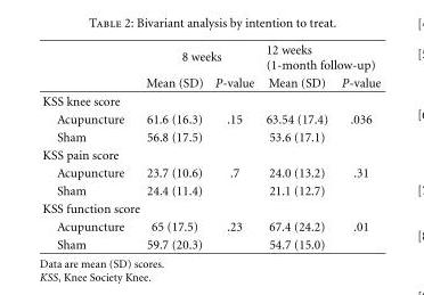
<table><thead><tr><td rowspan="2"></td><td colspan="2">8 weeks</td><td colspan="2">12 weeks (1-month follow-up)</td></tr><tr><td>Mean (SD)</td><td>P-value</td><td>Mean (SD)</td><td>P-value</td></tr></thead><tbody><tr><td colspan="5">KSS knee score</td></tr><tr><td>Acupuncture</td><td>61.6 (16.3)</td><td>.15</td><td>63.54 (17.4)</td><td>.036</td></tr><tr><td>Sham</td><td>56.8 (17.5)</td><td></td><td>53.6 (17.1)</td><td></td></tr><tr><td colspan="5">KSS pain score</td></tr><tr><td>Acupuncture</td><td>23.7 (10.6)</td><td>.7</td><td>24.0 (13.2)</td><td>.31</td></tr><tr><td>Sham</td><td>24.4 (11.4)</td><td></td><td>21.1 (12.7)</td><td></td></tr><tr><td colspan="5">KSS function score</td></tr><tr><td>Acupuncture</td><td>65 (17.5)</td><td>.23</td><td>67.4 (24.2)</td><td>.01</td></tr><tr><td>Sham</td><td>59.7 (20.3)</td><td></td><td>54.7 (15.0)</td><td></td></tr></tbody></table>